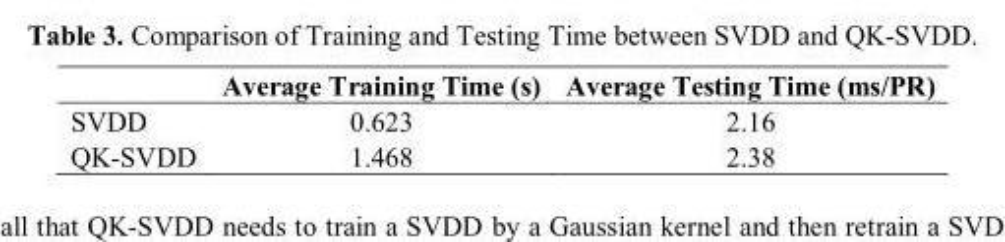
<table><thead><tr><td></td><td>Average Training Time (s)</td><td>Average Testing Time (ms/PR)</td></tr></thead><tbody><tr><td>SVDD</td><td>0.623</td><td>2.16</td></tr><tr><td>QK-SVDD</td><td>1.468</td><td>2.38</td></tr></tbody></table>